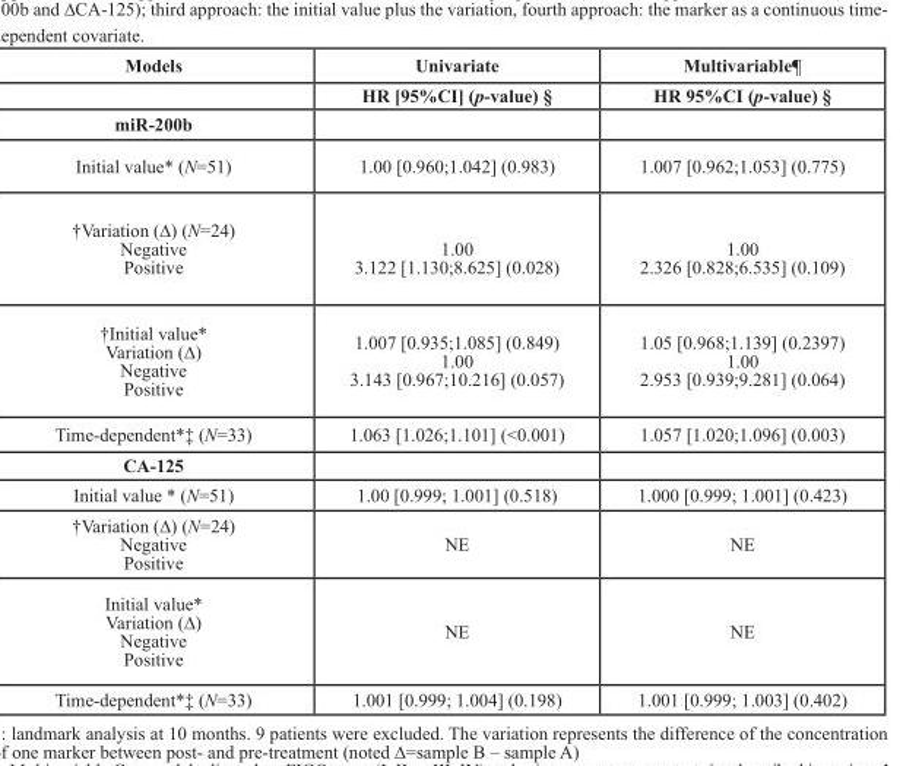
<table><thead><tr><td rowspan="2">Models</td><td rowspan="2">Univariate HR [95%CI] (p-value) <sup>§</sup></td><td rowspan="2">Multivariable<sup>¶</sup> HR 95%CI (p-value) <sup>§</sup></td></tr><tr></tr></thead><tbody><tr><td colspan="3">miR-200b</td></tr><tr><td>Initial value* (N=51)</td><td>1.00 [0.960;1.042] (0.983)</td><td>1.007 [0.962;1.053] (0.775)</td></tr><tr><td>†Variation (∆) (N=24) Negative Positive</td><td>1.00 3.122 [1.130;8.625] (0.028)</td><td>1.00 2.326 [0.828;6.535] (0.109)</td></tr><tr><td>†Initial value* Variation (∆) Negative Positive</td><td>1.007 [0.935;1.085] (0.849) 1.00 3.143 [0.967;10.216] (0.057)</td><td>1.05 [0.968;1.139] (0.2397) 1.00 2.953 [0.939;9.281] (0.064)</td></tr><tr><td>Time-dependent*<sup>‡</sup> (N=33)</td><td>1.063 [1.026;1.101] (&lt;0.001)</td><td>1.057 [1.020;1.096] (0.003)</td></tr><tr><td colspan="3">CA-125</td></tr><tr><td>Initial value * (N=51)</td><td>1.00 [0.999; 1.001] (0.518)</td><td>1.000 [0.999; 1.001] (0.423)</td></tr><tr><td>†Variation (∆) (N=24) Negative Positive</td><td>NE</td><td>NE</td></tr><tr><td>Initial value* Variation (∆) Negative Positive</td><td>NE</td><td>NE</td></tr><tr><td>Time-dependent*<sup>‡</sup> (N=33)</td><td>1.001 [0.999; 1.004] (0.198)</td><td>1.001 [0.999; 1.003] (0.402)</td></tr></tbody></table>